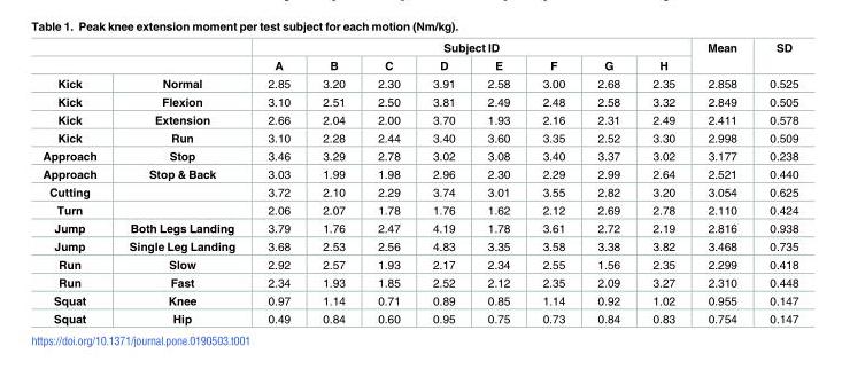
<table><thead><tr><td rowspan="2"></td><td rowspan="2"></td><td colspan="8">Subject ID</td><td rowspan="2">Mean</td><td rowspan="2">SD</td></tr><tr><td>A</td><td>B</td><td>C</td><td>D</td><td>E</td><td>F</td><td>G</td><td>H</td></tr></thead><tbody><tr><td>Kick</td><td>Normal</td><td>2.85</td><td>3.20</td><td>2.30</td><td>3.91</td><td>2.58</td><td>3.00</td><td>2.68</td><td>2.35</td><td>2.858</td><td>0.525</td></tr><tr><td>Kick</td><td>Flexion</td><td>3.10</td><td>2.51</td><td>2.50</td><td>3.81</td><td>2.49</td><td>2.48</td><td>2.58</td><td>3.32</td><td>2.849</td><td>0.505</td></tr><tr><td>Kick</td><td>Extension</td><td>2.66</td><td>2.04</td><td>2.00</td><td>3.70</td><td>1.93</td><td>2.16</td><td>2.31</td><td>2.49</td><td>2.411</td><td>0.578</td></tr><tr><td>Kick</td><td>Run</td><td>3.10</td><td>2.28</td><td>2.44</td><td>3.40</td><td>3.60</td><td>3.35</td><td>2.52</td><td>3.30</td><td>2.998</td><td>0.509</td></tr><tr><td>Approach</td><td>Stop</td><td>3.46</td><td>3.29</td><td>2.78</td><td>3.02</td><td>3.08</td><td>3.40</td><td>3.37</td><td>3.02</td><td>3.177</td><td>0.238</td></tr><tr><td>Approach</td><td>Stop &amp; Back</td><td>3.03</td><td>1.99</td><td>1.98</td><td>2.96</td><td>2.30</td><td>2.29</td><td>2.99</td><td>2.64</td><td>2.521</td><td>0.440</td></tr><tr><td>Cutting</td><td></td><td>3.72</td><td>2.10</td><td>2.29</td><td>3.74</td><td>3.01</td><td>3.55</td><td>2.82</td><td>3.20</td><td>3.054</td><td>0.625</td></tr><tr><td>Turn</td><td></td><td>2.06</td><td>2.07</td><td>1.78</td><td>1.76</td><td>1.62</td><td>2.12</td><td>2.69</td><td>2.78</td><td>2.110</td><td>0.424</td></tr><tr><td>Jump</td><td>Both Legs Landing</td><td>3.79</td><td>1.76</td><td>2.47</td><td>4.19</td><td>1.78</td><td>3.61</td><td>2.72</td><td>2.19</td><td>2.816</td><td>0.938</td></tr><tr><td>Jump</td><td>Single Leg Landing</td><td>3.68</td><td>2.53</td><td>2.56</td><td>4.83</td><td>3.35</td><td>3.58</td><td>3.38</td><td>3.82</td><td>3.468</td><td>0.735</td></tr><tr><td>Run</td><td>Slow</td><td>2.92</td><td>2.57</td><td>1.93</td><td>2.17</td><td>2.34</td><td>2.55</td><td>1.56</td><td>2.35</td><td>2.299</td><td>0.418</td></tr><tr><td>Run</td><td>Fast</td><td>2.34</td><td>1.93</td><td>1.85</td><td>2.52</td><td>2.12</td><td>2.35</td><td>2.09</td><td>3.27</td><td>2.310</td><td>0.448</td></tr><tr><td>Squat</td><td>Knee</td><td>0.97</td><td>1.14</td><td>0.71</td><td>0.89</td><td>0.85</td><td>1.14</td><td>0.92</td><td>1.02</td><td>0.955</td><td>0.147</td></tr><tr><td>Squat</td><td>Hip</td><td>0.49</td><td>0.84</td><td>0.60</td><td>0.95</td><td>0.75</td><td>0.73</td><td>0.84</td><td>0.83</td><td>0.754</td><td>0.147</td></tr></tbody></table>